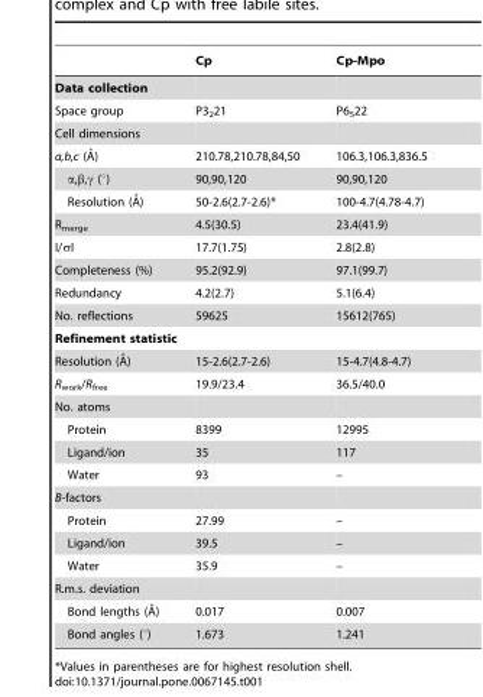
<table><thead><tr><td></td><td>Cp</td><td>Cp-Mpo</td></tr></thead><tbody><tr><td colspan="3">Data collection</td></tr><tr><td>Space group</td><td>P3<sub>2</sub>21</td><td>P6<sub>5</sub>22</td></tr><tr><td colspan="3">Cell dimensions</td></tr><tr><td>a,b,c (A˚)</td><td>210.78,210.78,84,50</td><td>106.3,106.3,836.5</td></tr><tr><td>α,β,γ (°)</td><td>90,90,120</td><td>90,90,120</td></tr><tr><td>Resolution (A˚)</td><td>50-2.6(2.7-2.6)*</td><td>100-4.7(4.78-4.7)</td></tr><tr><td>R<sub>merge</sub></td><td>4.5(30.5)</td><td>23.4(41.9)</td></tr><tr><td>I/σI</td><td>17.7(1.75)</td><td>2.8(2.8)</td></tr><tr><td>Completeness (%)</td><td>95.2(92.9)</td><td>97.1(99.7)</td></tr><tr><td>Redundancy</td><td>4.2(2.7)</td><td>5.1(6.4)</td></tr><tr><td>No. reflections</td><td>59625</td><td>15612(765)</td></tr><tr><td colspan="3">Refinement statistic</td></tr><tr><td>Resolution (A˚)</td><td>15-2.6(2.7-2.6)</td><td>15-4.7(4.8-4.7)</td></tr><tr><td>R<sub>work</sub>/R<sub>free</sub></td><td>19.9/23.4</td><td>36.5/40.0</td></tr><tr><td colspan="3">No. atoms</td></tr><tr><td>Protein</td><td>8399</td><td>12995</td></tr><tr><td>Ligand/ion</td><td>35</td><td>117</td></tr><tr><td>Water</td><td>93</td><td>–</td></tr><tr><td colspan="3">B-factors</td></tr><tr><td>Protein</td><td>27.99</td><td>–</td></tr><tr><td>Ligand/ion</td><td>39.5</td><td>–</td></tr><tr><td>Water</td><td>35.9</td><td>–</td></tr><tr><td colspan="3">R.m.s. deviation</td></tr><tr><td>Bond lengths (A˚)</td><td>0.017</td><td>0.007</td></tr><tr><td>Bond angles (°)</td><td>1.673</td><td>1.241</td></tr></tbody></table>